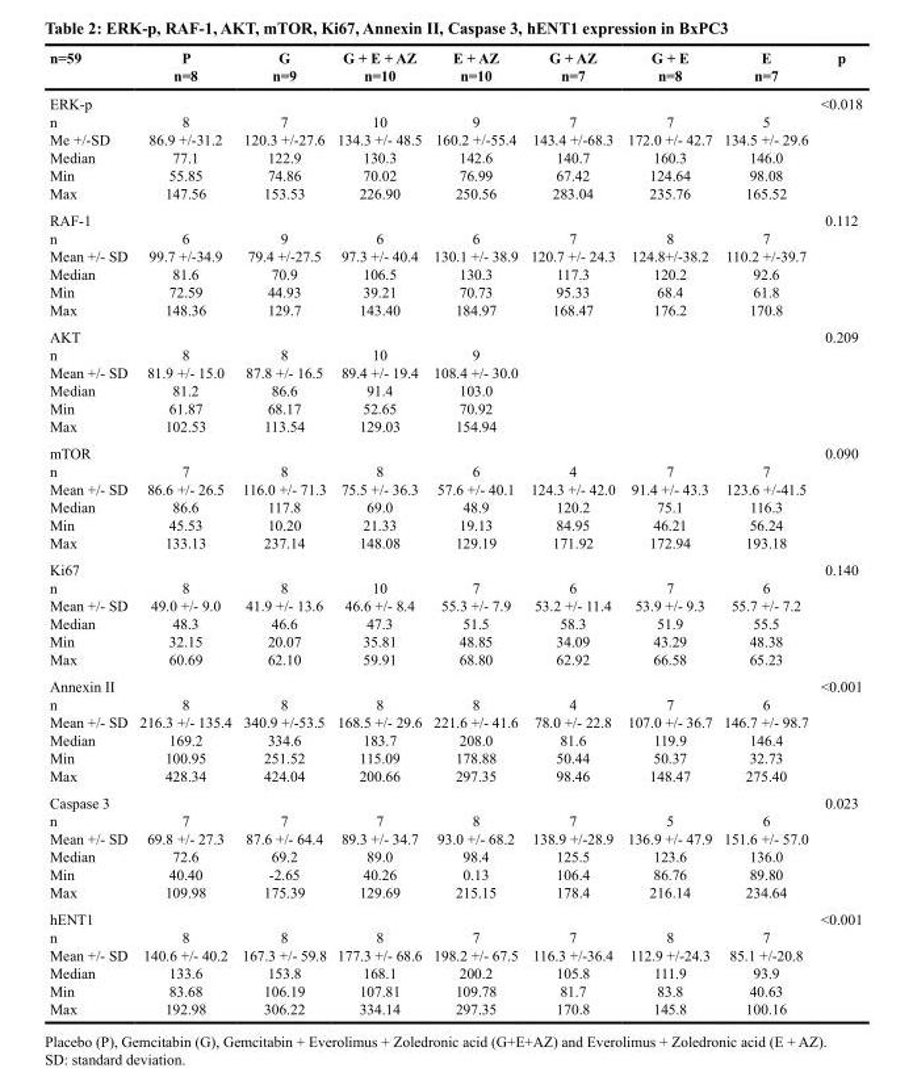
<table><thead><tr><td>n=59</td><td>P n=8</td><td>G n=9</td><td>G + E + AZ n=10</td><td>E + AZ n=10</td><td>G + AZ n=7</td><td>G + E n=8</td><td>E n=7</td><td>p</td></tr></thead><tbody><tr><td>ERK-p n Me +/-SD Median Min Max</td><td>8 86.9 +/-31.2 77.1 55.85 147.56</td><td>7 120.3 +/-27.6 122.9 74.86 153.53</td><td>10 134.3 +/- 48.5 130.3 70.02 226.90</td><td>9 160.2 +/-55.4 142.6 76.99 250.56</td><td>7 143.4 +/-68.3 140.7 67.42 283.04</td><td>7 172.0 +/- 42.7 160.3 124.64 235.76</td><td>5 134.5 +/- 29.6 146.0 98.08 165.52</td><td>&lt;0.018</td></tr><tr><td>RAF-1 n Mean +/- SD Median Min Max</td><td>6 99.7 +/-34.9 81.6 72.59 148.36</td><td>9 79.4 +/-27.5 70.9 44.93 129.7</td><td>6 97.3 +/- 40.4 106.5 39.21 143.40</td><td>6 130.1 +/- 38.9 130.3 70.73 184.97</td><td>7 120.7 +/- 24.3 117.3 95.33 168.47</td><td>8 124.8+/-38.2 120.2 68.4 176.2</td><td>7 110.2 +/-39.7 92.6 61.8 170.8</td><td>0.112</td></tr><tr><td>AKT n Mean +/- SD Median Min Max</td><td>8 81.9 +/- 15.0 81.2 61.87 102.53</td><td>8 87.8 +/- 16.5 86.6 68.17 113.54</td><td>10 89.4 +/- 19.4 91.4 52.65 129.03</td><td>9 108.4 +/- 30.0 103.0 70.92 154.94</td><td></td><td></td><td></td><td>0.209</td></tr><tr><td>mTOR n Mean +/- SD Median Min Max</td><td>7 86.6 +/- 26.5 86.6 45.53 133.13</td><td>8 116.0 +/- 71.3 117.8 10.20 237.14</td><td>8 75.5 +/- 36.3 69.0 21.33 148.08</td><td>6 57.6 +/- 40.1 48.9 19.13 129.19</td><td>4 124.3 +/- 42.0 120.2 84.95 171.92</td><td>7 91.4 +/- 43.3 75.1 46.21 172.94</td><td>7 123.6 +/-41.5 116.3 56.24 193.18</td><td>0.090</td></tr><tr><td>Ki67 n Mean +/- SD Median Min Max</td><td>8 49.0 +/- 9.0 48.3 32.15 60.69</td><td>8 41.9 +/- 13.6 46.6 20.07 62.10</td><td>10 46.6 +/- 8.4 47.3 35.81 59.91</td><td>7 55.3 +/- 7.9 51.5 48.85 68.80</td><td>6 53.2 +/- 11.4 58.3 34.09 62.92</td><td>7 53.9 +/- 9.3 51.9 43.29 66.58</td><td>6 55.7 +/- 7.2 55.5 48.38 65.23</td><td>0.140</td></tr><tr><td>Annexin II n Mean +/- SD Median Min Max</td><td>8 216.3 +/- 135.4 169.2 100.95 428.34</td><td>8 340.9 +/-53.5 334.6 251.52 424.04</td><td>8 168.5 +/- 29.6 183.7 115.09 200.66</td><td>8 221.6 +/- 41.6 208.0 178.88 297.35</td><td>4 78.0 +/- 22.8 81.6 50.44 98.46</td><td>7 107.0 +/- 36.7 119.9 50.37 148.47</td><td>6 146.7 +/- 98.7 146.4 32.73 275.40</td><td>&lt;0.001</td></tr><tr><td>Caspase 3 n Mean +/- SD Median Min Max</td><td>7 69.8 +/- 27.3 72.6 40.40 109.98</td><td>7 87.6 +/- 64.4 69.2 -2.65 175.39</td><td>7 89.3 +/- 34.7 89.0 40.26 129.69</td><td>8 93.0 +/- 68.2 98.4 0.13 215.15</td><td>7 138.9 +/-28.9 125.5 106.4 178.4</td><td>5 136.9 +/- 47.9 123.6 86.76 216.14</td><td>6 151.6 +/- 57.0 136.0 89.80 234.64</td><td>0.023</td></tr><tr><td>hENT1 n Mean +/- SD Median Min Max</td><td>8 140.6 +/- 40.2 133.6 83.68 192.98</td><td>8 167.3 +/- 59.8 153.8 106.19 306.22</td><td>8 177.3 +/- 68.6 168.1 107.81 334.14</td><td>7 198.2 +/- 67.5 200.2 109.78 297.35</td><td>7 116.3 +/-36.4 105.8 81.7 170.8</td><td>8 112.9 +/-24.3 111.9 83.8 145.8</td><td>7 85.1 +/-20.8 93.9 40.63 100.16</td><td>&lt;0.001</td></tr></tbody></table>